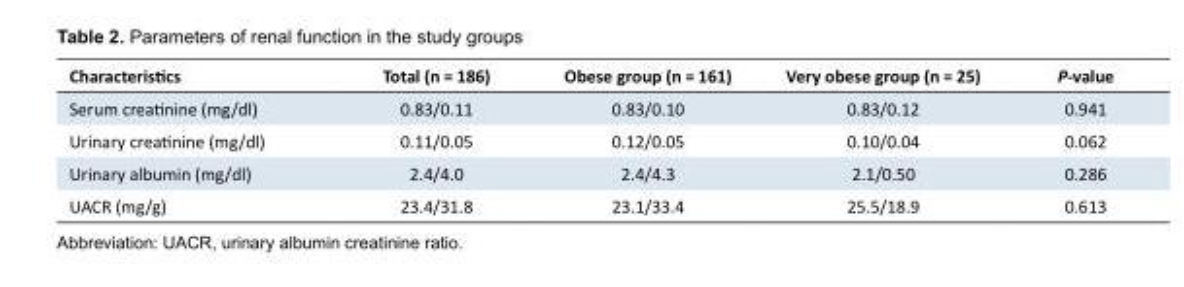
<table><tbody><tr><td>Characteristics</td><td>Total (n = 186)</td><td>Obese group (n = 161)</td><td>Very obese group (n = 25)</td><td>P-value</td></tr><tr><td>Serum creatinine (mg/dl)</td><td>0.83/0.11</td><td>0.83/0.10</td><td>0.83/0.12</td><td>0.941</td></tr><tr><td>Urinary creatinine (mg/dl)</td><td>0.11/0.05</td><td>0.12/0.05</td><td>0.10/0.04</td><td>0.062</td></tr><tr><td>Urinary albumin (mg/dl)</td><td>2.4/4.0</td><td>2.4/4.3</td><td>2.1/0.50</td><td>0.286</td></tr><tr><td>UACR (mg/g)</td><td>23.4/31.8</td><td>23.1/33.4</td><td>25.5/18.9</td><td>0.613</td></tr></tbody></table>